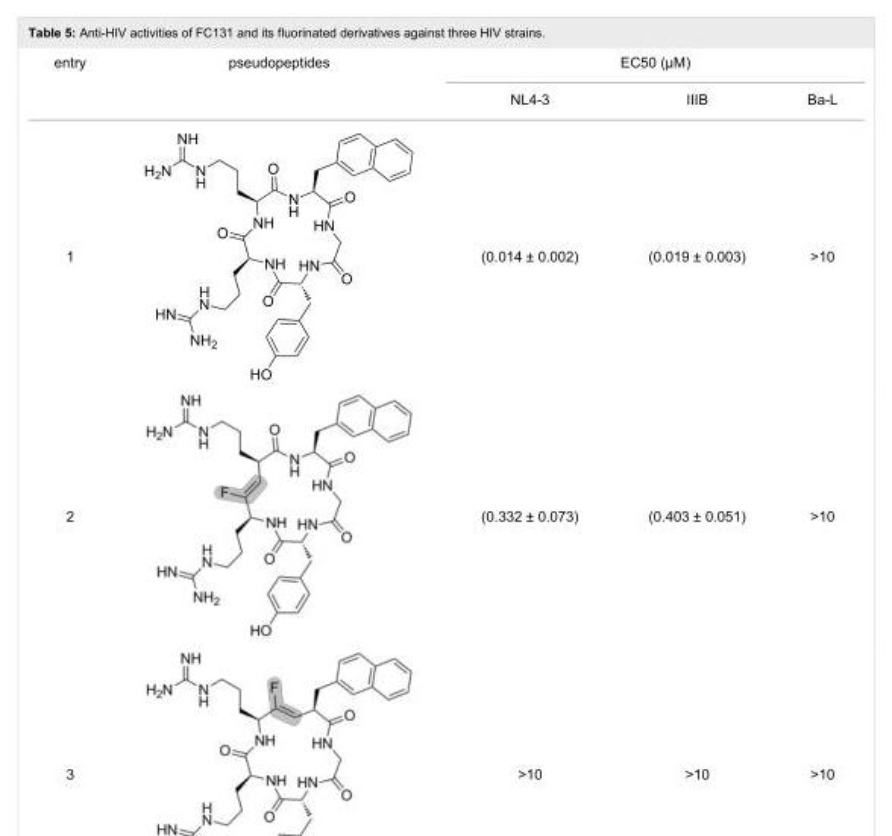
<table><tbody><tr><td rowspan="2">entry</td><td>pseudopeptides</td><td colspan="3">EC50 (μM)</td></tr><tr><td></td><td>NL4-3</td><td>IIIB</td><td>Ba-L</td></tr><tr><td>1</td><td></td><td>(0.014 ± 0.002)</td><td>(0.019 ± 0.003)</td><td>&gt;10</td></tr><tr><td>2</td><td></td><td>(0.332 ± 0.073)</td><td>(0.403 ± 0.051)</td><td>&gt;10</td></tr><tr><td>3</td><td></td><td>&gt;10</td><td>&gt;10</td><td>&gt;10</td></tr></tbody></table>